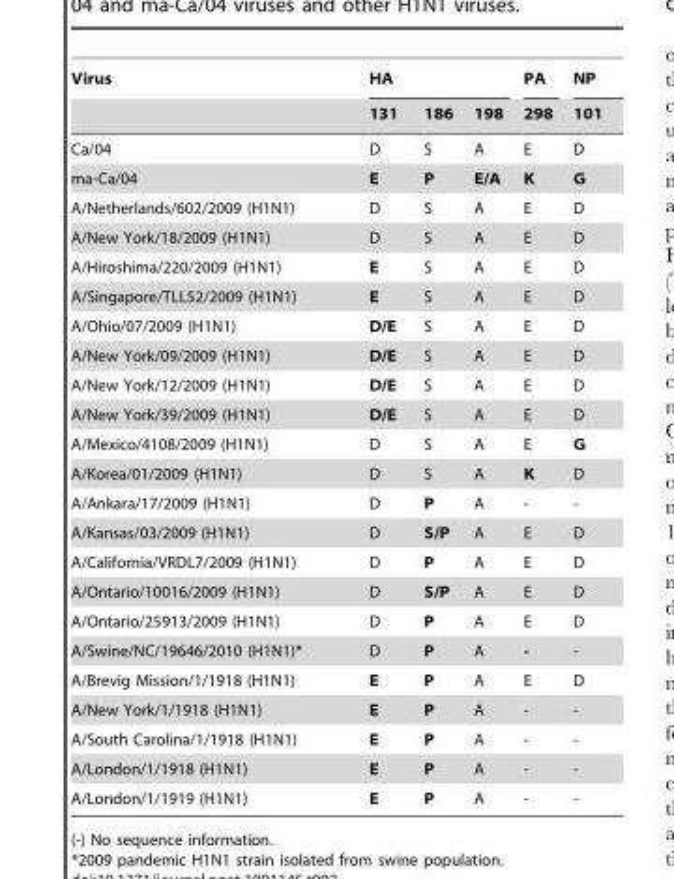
<table><thead><tr><td rowspan="2">Virus</td><td colspan="3">HA</td><td rowspan="2">PA 298</td><td rowspan="2">NP 101</td></tr><tr><td>131</td><td>186</td><td>198</td></tr></thead><tbody><tr><td>Ca/04</td><td>D</td><td>S</td><td>A</td><td>E</td><td>D</td></tr><tr><td>ma-Ca/04</td><td>E</td><td>P</td><td>E/A</td><td>K</td><td>G</td></tr><tr><td>A/Netherlands/602/2009 (H1N1)</td><td>D</td><td>S</td><td>A</td><td>E</td><td>D</td></tr><tr><td>A/New York/18/2009 (H1N1)</td><td>D</td><td>S</td><td>A</td><td>E</td><td>D</td></tr><tr><td>A/Hiroshima/220/2009 (H1N1)</td><td>E</td><td>S</td><td>A</td><td>E</td><td>D</td></tr><tr><td>A/Singapore/TLL52/2009 (H1N1)</td><td>E</td><td>S</td><td>A</td><td>E</td><td>D</td></tr><tr><td>A/Ohio/07/2009 (H1N1)</td><td>D/E</td><td>S</td><td>A</td><td>E</td><td>D</td></tr><tr><td>A/New York/09/2009 (H1N1)</td><td>D/E</td><td>S</td><td>A</td><td>E</td><td>D</td></tr><tr><td>A/New York/12/2009 (H1N1)</td><td>D/E</td><td>S</td><td>A</td><td>E</td><td>D</td></tr><tr><td>A/New York/39/2009 (H1N1)</td><td>D/E</td><td>S</td><td>A</td><td>E</td><td>D</td></tr><tr><td>A/Mexico/4108/2009 (H1N1)</td><td>D</td><td>S</td><td>A</td><td>E</td><td>G</td></tr><tr><td>A/Korea/01/2009 (H1N1)</td><td>D</td><td>S</td><td>A</td><td>K</td><td>D</td></tr><tr><td>A/Ankara/17/2009 (H1N1)</td><td>D</td><td>P</td><td>A</td><td>-</td><td>-</td></tr><tr><td>A/Kansas/03/2009 (H1N1)</td><td>D</td><td>S/P</td><td>A</td><td>E</td><td>D</td></tr><tr><td>A/California/VRDL7/2009 (H1N1)</td><td>D</td><td>P</td><td>A</td><td>E</td><td>D</td></tr><tr><td>A/Ontario/10016/2009 (H1N1)</td><td>D</td><td>S/P</td><td>A</td><td>E</td><td>D</td></tr><tr><td>A/Ontario/25913/2009 (H1N1)</td><td>D</td><td>P</td><td>A</td><td>E</td><td>D</td></tr><tr><td>A/Swine/NC/19646/2010 (H1N1)*</td><td>D</td><td>P</td><td>A</td><td>-</td><td>-</td></tr><tr><td>A/Brevig Mission/1/1918 (H1N1)</td><td>E</td><td>P</td><td>A</td><td>E</td><td>D</td></tr><tr><td>A/New York/1/1918 (H1N1)</td><td>E</td><td>P</td><td>A</td><td>-</td><td>-</td></tr><tr><td>A/South Carolina/1/1918 (H1N1)</td><td>E</td><td>P</td><td>A</td><td>-</td><td>-</td></tr><tr><td>A/London/1/1918 (H1N1)</td><td>E</td><td>P</td><td>A</td><td>-</td><td>-</td></tr><tr><td>A/London/1/1919 (H1N1)</td><td>E</td><td>P</td><td>A</td><td>-</td><td>-</td></tr></tbody></table>